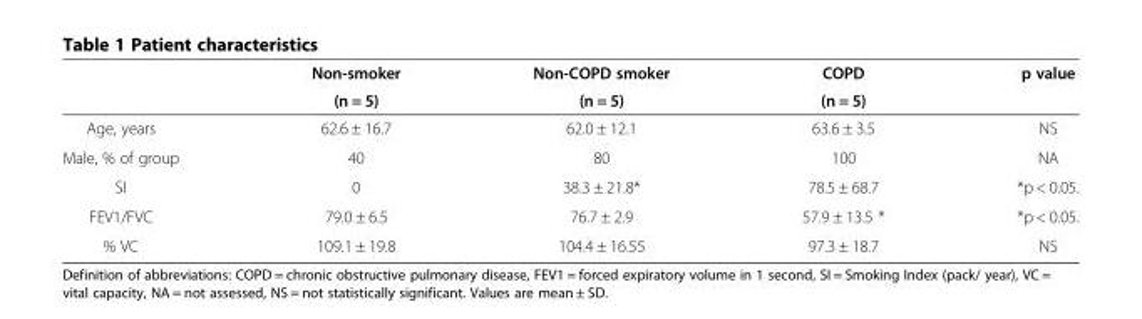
<table><thead><tr><td rowspan="2"></td><td rowspan="2">Non-smoker (n = 5)</td><td rowspan="2">Non-COPD smoker (n = 5)</td><td rowspan="2">COPD (n = 5)</td><td rowspan="2">p value</td></tr><tr></tr></thead><tbody><tr><td>Age, years</td><td>62.6 ± 16.7</td><td>62.0 ± 12.1</td><td>63.6 ± 3.5</td><td>NS</td></tr><tr><td>Male, % of group</td><td>40</td><td>80</td><td>100</td><td>NA</td></tr><tr><td>SI</td><td>0</td><td>38.3 ± 21.8*</td><td>78.5 ± 68.7</td><td>*p &lt; 0.05.</td></tr><tr><td>FEV1/FVC</td><td>79.0 ± 6.5</td><td>76.7 ± 2.9</td><td>57.9 ± 13.5 *</td><td>*p &lt; 0.05.</td></tr><tr><td>% VC</td><td>109.1 ± 19.8</td><td>104.4 ± 16.55</td><td>97.3 ± 18.7</td><td>NS</td></tr></tbody></table>